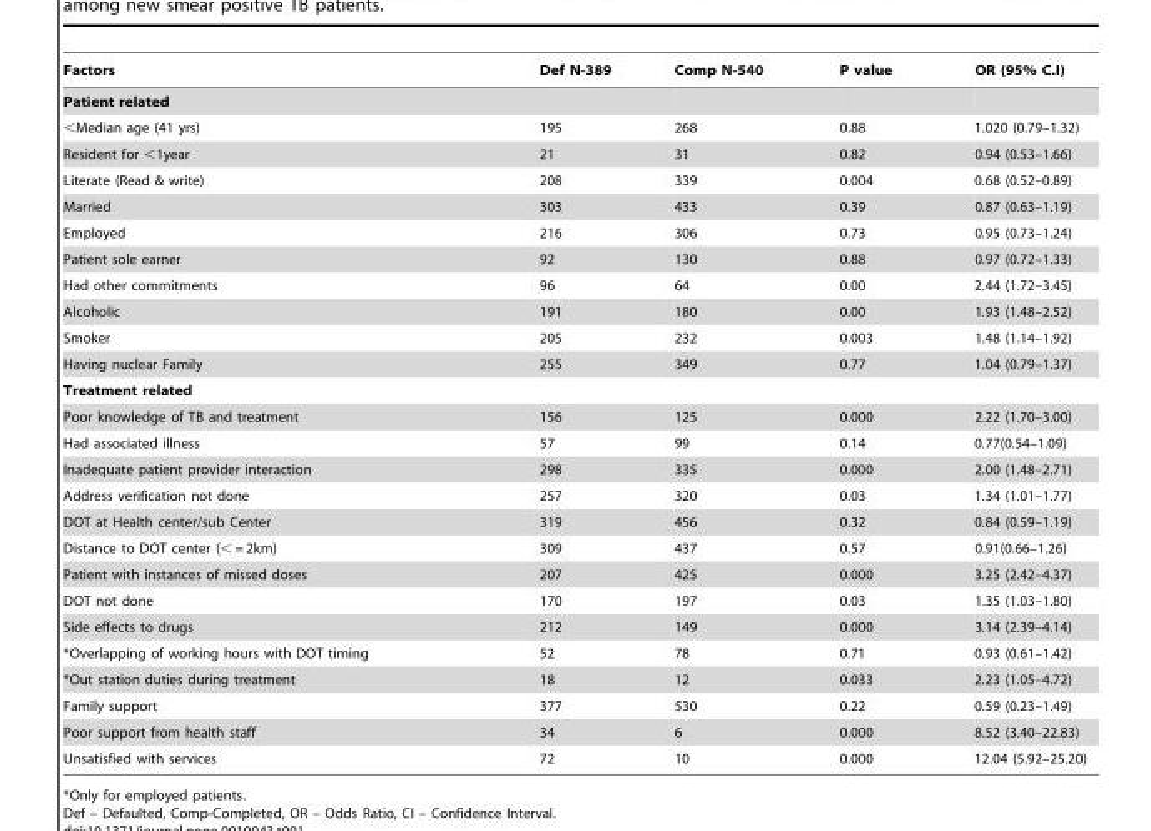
<table><thead><tr><td>Factors</td><td>Def N-389</td><td>Comp N-540</td><td>P value</td><td>OR (95% C.I)</td></tr></thead><tbody><tr><td colspan="5">Patient related</td></tr><tr><td>&lt;Median age (41 yrs)</td><td>195</td><td>268</td><td>0.88</td><td>1.020 (0.79–1.32)</td></tr><tr><td>Resident for &lt;1year</td><td>21</td><td>31</td><td>0.82</td><td>0.94 (0.53–1.66)</td></tr><tr><td>Literate (Read &amp; write)</td><td>208</td><td>339</td><td>0.004</td><td>0.68 (0.52–0.89)</td></tr><tr><td>Married</td><td>303</td><td>433</td><td>0.39</td><td>0.87 (0.63–1.19)</td></tr><tr><td>Employed</td><td>216</td><td>306</td><td>0.73</td><td>0.95 (0.73–1.24)</td></tr><tr><td>Patient sole earner</td><td>92</td><td>130</td><td>0.88</td><td>0.97 (0.72–1.33)</td></tr><tr><td>Had other commitments</td><td>96</td><td>64</td><td>0.00</td><td>2.44 (1.72–3.45)</td></tr><tr><td>Alcoholic</td><td>191</td><td>180</td><td>0.00</td><td>1.93 (1.48–2.52)</td></tr><tr><td>Smoker</td><td>205</td><td>232</td><td>0.003</td><td>1.48 (1.14–1.92)</td></tr><tr><td>Having nuclear Family</td><td>255</td><td>349</td><td>0.77</td><td>1.04 (0.79–1.37)</td></tr><tr><td colspan="5">Treatment related</td></tr><tr><td>Poor knowledge of TB and treatment</td><td>156</td><td>125</td><td>0.000</td><td>2.22 (1.70–3.00)</td></tr><tr><td>Had associated illness</td><td>57</td><td>99</td><td>0.14</td><td>0.77(0.54–1.09)</td></tr><tr><td>Inadequate patient provider interaction</td><td>298</td><td>335</td><td>0.000</td><td>2.00 (1.48–2.71)</td></tr><tr><td>Address verification not done</td><td>257</td><td>320</td><td>0.03</td><td>1.34 (1.01–1.77)</td></tr><tr><td>DOT at Health center/sub Center</td><td>319</td><td>456</td><td>0.32</td><td>0.84 (0.59–1.19)</td></tr><tr><td>Distance to DOT center (&lt; = 2km)</td><td>309</td><td>437</td><td>0.57</td><td>0.91(0.66–1.26)</td></tr><tr><td>Patient with instances of missed doses</td><td>207</td><td>425</td><td>0.000</td><td>3.25 (2.42–4.37)</td></tr><tr><td>DOT not done</td><td>170</td><td>197</td><td>0.03</td><td>1.35 (1.03–1.80)</td></tr><tr><td>Side effects to drugs</td><td>212</td><td>149</td><td>0.000</td><td>3.14 (2.39–4.14)</td></tr><tr><td>*Overlapping of working hours with DOT timing</td><td>52</td><td>78</td><td>0.71</td><td>0.93 (0.61–1.42)</td></tr><tr><td>*Out station duties during treatment</td><td>18</td><td>12</td><td>0.033</td><td>2.23 (1.05–4.72)</td></tr><tr><td>Family support</td><td>377</td><td>530</td><td>0.22</td><td>0.59 (0.23–1.49)</td></tr><tr><td>Poor support from health staff</td><td>34</td><td>6</td><td>0.000</td><td>8.52 (3.40–22.83)</td></tr><tr><td>Unsatisfied with services</td><td>72</td><td>10</td><td>0.000</td><td>12.04 (5.92–25.20)</td></tr></tbody></table>